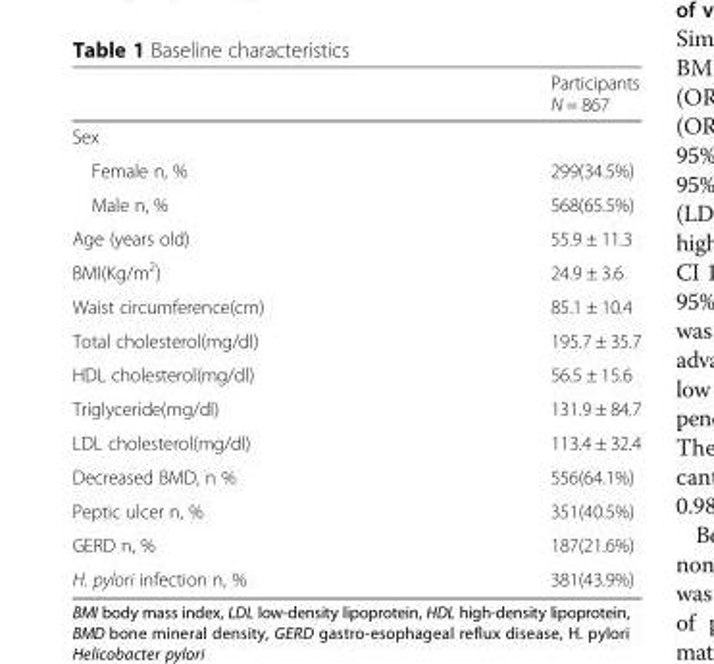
<table><thead><tr><td></td><td>Participants N = 867</td></tr></thead><tbody><tr><td colspan="2">Sex</td></tr><tr><td>Female n, %</td><td>299(34.5%)</td></tr><tr><td>Male n, %</td><td>568(65.5%)</td></tr><tr><td>Age (years old)</td><td>55.9 ± 11.3</td></tr><tr><td>BMI(Kg/m<sup>2</sup>)</td><td>24.9 ± 3.6</td></tr><tr><td>Waist circumference(cm)</td><td>85.1 ± 10.4</td></tr><tr><td>Total cholesterol(mg/dl)</td><td>195.7 ± 35.7</td></tr><tr><td>HDL cholesterol(mg/dl)</td><td>56.5 ± 15.6</td></tr><tr><td>Triglyceride(mg/dl)</td><td>131.9 ± 84.7</td></tr><tr><td>LDL cholesterol(mg/dl)</td><td>113.4 ± 32.4</td></tr><tr><td>Decreased BMD, n %</td><td>556(64.1%)</td></tr><tr><td>Peptic ulcer n, %</td><td>351(40.5%)</td></tr><tr><td>GERD n, %</td><td>187(21.6%)</td></tr><tr><td>H. pylori infection n, %</td><td>381(43.9%)</td></tr></tbody></table>